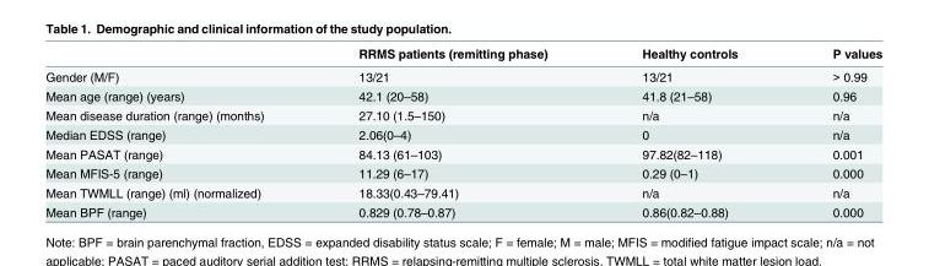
<table><thead><tr><td></td><td>RRMS patients (remitting phase)</td><td>Healthy controls</td><td>P values</td></tr></thead><tbody><tr><td>Gender (M/F)</td><td>13/21</td><td>13/21</td><td>&gt; 0.99</td></tr><tr><td>Mean age (range) (years)</td><td>42.1 (20–58)</td><td>41.8 (21–58)</td><td>0.96</td></tr><tr><td>Mean disease duration (range) (months)</td><td>27.10 (1.5–150)</td><td>n/a</td><td>n/a</td></tr><tr><td>Median EDSS (range)</td><td>2.06(0–4)</td><td>0</td><td>n/a</td></tr><tr><td>Mean PASAT (range)</td><td>84.13 (61–103)</td><td>97.82(82–118)</td><td>0.001</td></tr><tr><td>Mean MFIS-5 (range)</td><td>11.29 (6–17)</td><td>0.29 (0–1)</td><td>0.000</td></tr><tr><td>Mean TWMLL (range) (ml) (normalized)</td><td>18.33(0.43–79.41)</td><td>n/a</td><td>n/a</td></tr><tr><td>Mean BPF (range)</td><td>0.829 (0.78–0.87)</td><td>0.86(0.82–0.88)</td><td>0.000</td></tr></tbody></table>